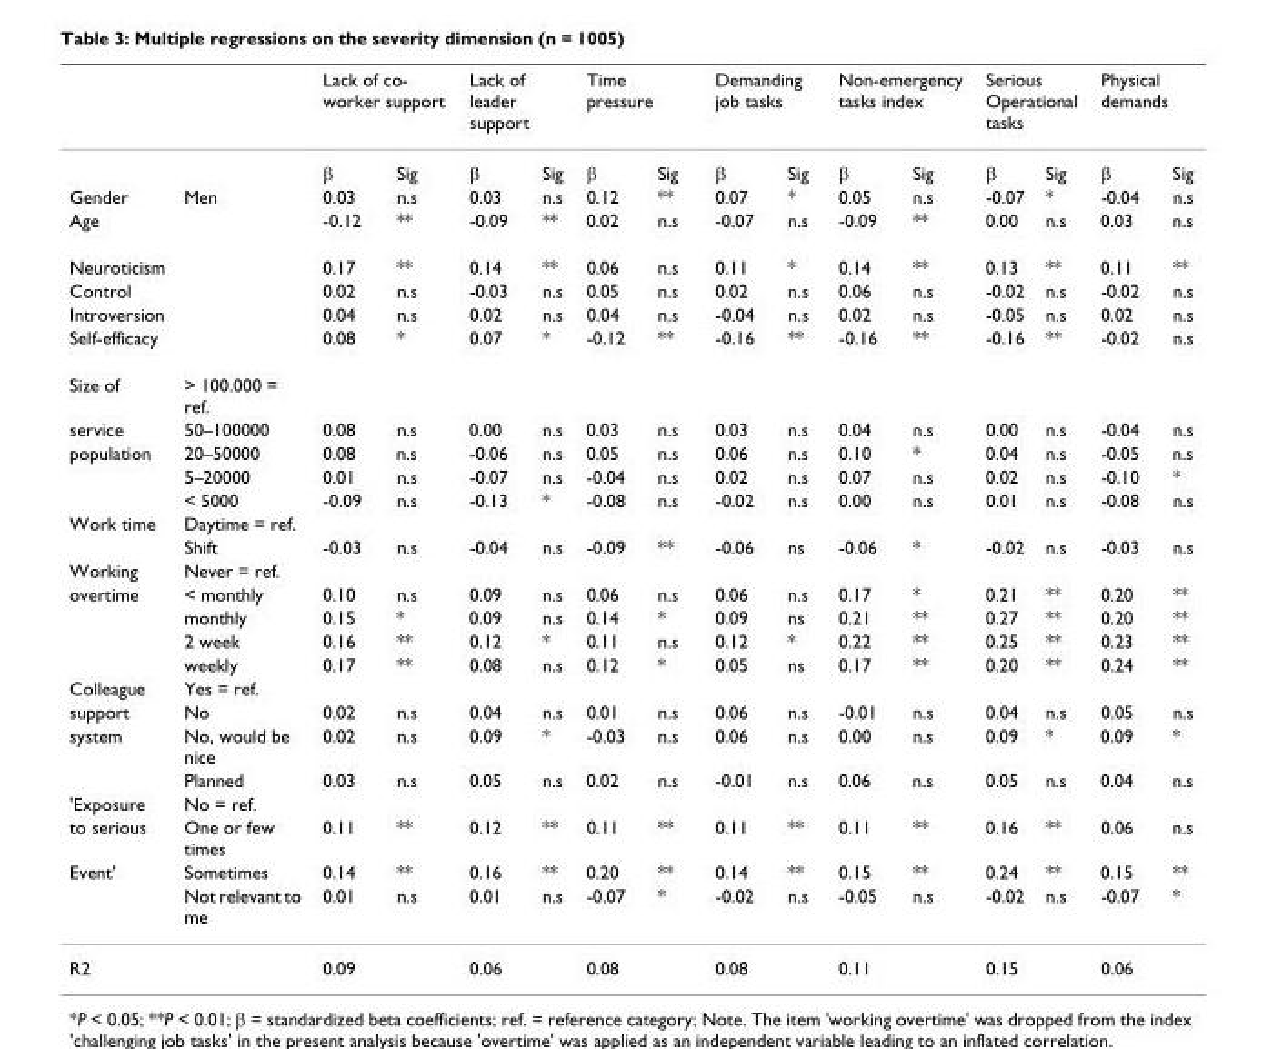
<table><thead><tr><td rowspan="2"></td><td rowspan="2"></td><td colspan="2">Lack of co- worker support</td><td colspan="2">Lack of leader support</td><td colspan="2">Time pressure</td><td colspan="2">Demanding job tasks</td><td colspan="2">Non-emergency tasks index</td><td colspan="2">Serious Operational tasks</td><td colspan="2">Physical demands</td></tr><tr><td>β</td><td>Sig</td><td>β</td><td>Sig</td><td>β</td><td>Sig</td><td>β</td><td>Sig</td><td>β</td><td>Sig</td><td>β</td><td>Sig</td><td>β</td><td>Sig</td></tr></thead><tbody><tr><td>Gender</td><td>Men</td><td>0.03</td><td>n.s</td><td>0.03</td><td>n.s</td><td>0.12</td><td>**</td><td>0.07</td><td>*</td><td>0.05</td><td>n.s</td><td>-0.07</td><td>*</td><td>-0.04</td><td>n.s</td></tr><tr><td>Age</td><td></td><td>-0.12</td><td>**</td><td>-0.09</td><td>**</td><td>0.02</td><td>n.s</td><td>-0.07</td><td>n.s</td><td>-0.09</td><td>**</td><td>0.00</td><td>n.s</td><td>0.03</td><td>n.s</td></tr><tr><td>Neuroticism</td><td></td><td>0.17</td><td>**</td><td>0.14</td><td>**</td><td>0.06</td><td>n.s</td><td>0.11</td><td>*</td><td>0.14</td><td>**</td><td>0.13</td><td>**</td><td>0.11</td><td>**</td></tr><tr><td>Control</td><td></td><td>0.02</td><td>n.s</td><td>-0.03</td><td>n.s</td><td>0.05</td><td>n.s</td><td>0.02</td><td>n.s</td><td>0.06</td><td>n.s</td><td>-0.02</td><td>n.s</td><td>-0.02</td><td>n.s</td></tr><tr><td>Introversion</td><td></td><td>0.04</td><td>n.s</td><td>0.02</td><td>n.s</td><td>0.04</td><td>n.s</td><td>-0.04</td><td>n.s</td><td>0.02</td><td>n.s</td><td>-0.05</td><td>n.s</td><td>0.02</td><td>n.s</td></tr><tr><td>Self-efficacy</td><td></td><td>0.08</td><td>*</td><td>0.07</td><td>*</td><td>-0.12</td><td>**</td><td>-0.16</td><td>**</td><td>-0.16</td><td>**</td><td>-0.16</td><td>**</td><td>-0.02</td><td>n.s</td></tr><tr><td>Size of</td><td>&gt; 100.000 = ref.</td><td></td><td></td><td></td><td></td><td></td><td></td><td></td><td></td><td></td><td></td><td></td><td></td><td></td><td></td></tr><tr><td>service</td><td>50–100000</td><td>0.08</td><td>n.s</td><td>0.00</td><td>n.s</td><td>0.03</td><td>n.s</td><td>0.03</td><td>n.s</td><td>0.04</td><td>n.s</td><td>0.00</td><td>n.s</td><td>-0.04</td><td>n.s</td></tr><tr><td rowspan="3">population</td><td>20–50000</td><td>0.08</td><td>n.s</td><td>-0.06</td><td>n.s</td><td>0.05</td><td>n.s</td><td>0.06</td><td>n.s</td><td>0.10</td><td>*</td><td>0.04</td><td>n.s</td><td>-0.05</td><td>n.s</td></tr><tr><td>5–20000</td><td>0.01</td><td>n.s</td><td>-0.07</td><td>n.s</td><td>-0.04</td><td>n.s</td><td>0.02</td><td>n.s</td><td>0.07</td><td>n.s</td><td>0.02</td><td>n.s</td><td>-0.10</td><td>*</td></tr><tr><td>&lt; 5000</td><td>-0.09</td><td>n.s</td><td>-0.13</td><td>*</td><td>-0.08</td><td>n.s</td><td>-0.02</td><td>n.s</td><td>0.00</td><td>n.s</td><td>0.01</td><td>n.s</td><td>-0.08</td><td>n.s</td></tr><tr><td rowspan="2">Work time</td><td>Daytime = ref.</td><td></td><td></td><td></td><td></td><td></td><td></td><td></td><td></td><td></td><td></td><td></td><td></td><td></td><td></td></tr><tr><td>Shift</td><td>-0.03</td><td>n.s</td><td>-0.04</td><td>n.s</td><td>-0.09</td><td>**</td><td>-0.06</td><td>ns</td><td>-0.06</td><td>*</td><td>-0.02</td><td>n.s</td><td>-0.03</td><td>n.s</td></tr><tr><td>Working</td><td>Never = ref.</td><td></td><td></td><td></td><td></td><td></td><td></td><td></td><td></td><td></td><td></td><td></td><td></td><td></td><td></td></tr><tr><td rowspan="4">overtime</td><td>&lt; monthly</td><td>0.10</td><td>n.s</td><td>0.09</td><td>n.s</td><td>0.06</td><td>n.s</td><td>0.06</td><td>n.s</td><td>0.17</td><td>*</td><td>0.21</td><td>**</td><td>0.20</td><td>**</td></tr><tr><td>monthly</td><td>0.15</td><td>*</td><td>0.09</td><td>n.s</td><td>0.14</td><td>*</td><td>0.09</td><td>ns</td><td>0.21</td><td>**</td><td>0.27</td><td>**</td><td>0.20</td><td>**</td></tr><tr><td>2 week</td><td>0.16</td><td>**</td><td>0.12</td><td>*</td><td>0.11</td><td>n.s</td><td>0.12</td><td>*</td><td>0.22</td><td>**</td><td>0.25</td><td>**</td><td>0.23</td><td>**</td></tr><tr><td>weekly</td><td>0.17</td><td>**</td><td>0.08</td><td>n.s</td><td>0.12</td><td>*</td><td>0.05</td><td>ns</td><td>0.17</td><td>**</td><td>0.20</td><td>**</td><td>0.24</td><td>**</td></tr><tr><td>Colleague</td><td>Yes = ref.</td><td></td><td></td><td></td><td></td><td></td><td></td><td></td><td></td><td></td><td></td><td></td><td></td><td></td><td></td></tr><tr><td>support</td><td>No</td><td>0.02</td><td>n.s</td><td>0.04</td><td>n.s</td><td>0.01</td><td>n.s</td><td>0.06</td><td>n.s</td><td>-0.01</td><td>n.s</td><td>0.04</td><td>n.s</td><td>0.05</td><td>n.s</td></tr><tr><td rowspan="2">system</td><td>No, would be nice</td><td>0.02</td><td>n.s</td><td>0.09</td><td>*</td><td>-0.03</td><td>n.s</td><td>0.06</td><td>n.s</td><td>0.00</td><td>n.s</td><td>0.09</td><td>*</td><td>0.09</td><td>*</td></tr><tr><td>Planned</td><td>0.03</td><td>n.s</td><td>0.05</td><td>n.s</td><td>0.02</td><td>n.s</td><td>-0.01</td><td>n.s</td><td>0.06</td><td>n.s</td><td>0.05</td><td>n.s</td><td>0.04</td><td>n.s</td></tr><tr><td>&#x27;Exposure</td><td>No = ref.</td><td></td><td></td><td></td><td></td><td></td><td></td><td></td><td></td><td></td><td></td><td></td><td></td><td></td><td></td></tr><tr><td>to serious</td><td>One or few times</td><td>0.11</td><td>**</td><td>0.12</td><td>**</td><td>0.11</td><td>**</td><td>0.11</td><td>**</td><td>0.11</td><td>**</td><td>0.16</td><td>**</td><td>0.06</td><td>n.s</td></tr><tr><td rowspan="2">Event&#x27;</td><td>Sometimes</td><td>0.14</td><td>**</td><td>0.16</td><td>**</td><td>0.20</td><td>**</td><td>0.14</td><td>**</td><td>0.15</td><td>**</td><td>0.24</td><td>**</td><td>0.15</td><td>**</td></tr><tr><td>Not relevant to me</td><td>0.01</td><td>n.s</td><td>0.01</td><td>n.s</td><td>-0.07</td><td>*</td><td>-0.02</td><td>n.s</td><td>-0.05</td><td>n.s</td><td>-0.02</td><td>n.s</td><td>-0.07</td><td>*</td></tr><tr><td>R2</td><td></td><td>0.09</td><td></td><td>0.06</td><td></td><td>0.08</td><td></td><td>0.08</td><td></td><td>0.11</td><td></td><td>0.15</td><td></td><td>0.06</td><td></td></tr></tbody></table>